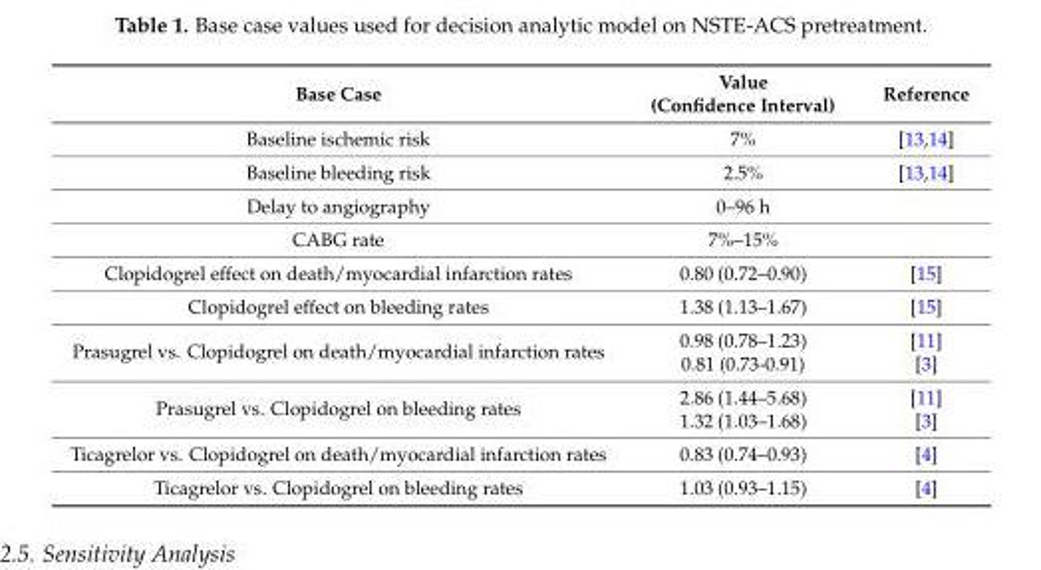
<table><thead><tr><td>Base Case</td><td>Value (Confidence Interval)</td><td>Reference</td></tr></thead><tbody><tr><td>Baseline ischemic risk</td><td>7%</td><td>[13,14]</td></tr><tr><td>Baseline bleeding risk</td><td>2.5%</td><td>[13,14]</td></tr><tr><td>Delay to angiography</td><td>0–96 h</td><td></td></tr><tr><td>CABG rate</td><td>7%–15%</td><td></td></tr><tr><td>Clopidogrel effect on death/myocardial infarction rates</td><td>0.80 (0.72–0.90)</td><td>[15]</td></tr><tr><td>Clopidogrel effect on bleeding rates</td><td>1.38 (1.13–1.67)</td><td>[15]</td></tr><tr><td rowspan="2">Prasugrel vs. Clopidogrel on death/myocardial infarction rates</td><td>0.98 (0.78–1.23)</td><td>[11]</td></tr><tr><td>0.81 (0.73-0.91)</td><td>[3]</td></tr><tr><td rowspan="2">Prasugrel vs. Clopidogrel on bleeding rates</td><td>2.86 (1.44–5.68)</td><td>[11]</td></tr><tr><td>1.32 (1.03–1.68)</td><td>[3]</td></tr><tr><td>Ticagrelor vs. Clopidogrel on death/myocardial infarction rates</td><td>0.83 (0.74–0.93)</td><td>[4]</td></tr><tr><td>Ticagrelor vs. Clopidogrel on bleeding rates</td><td>1.03 (0.93–1.15)</td><td>[4]</td></tr></tbody></table>